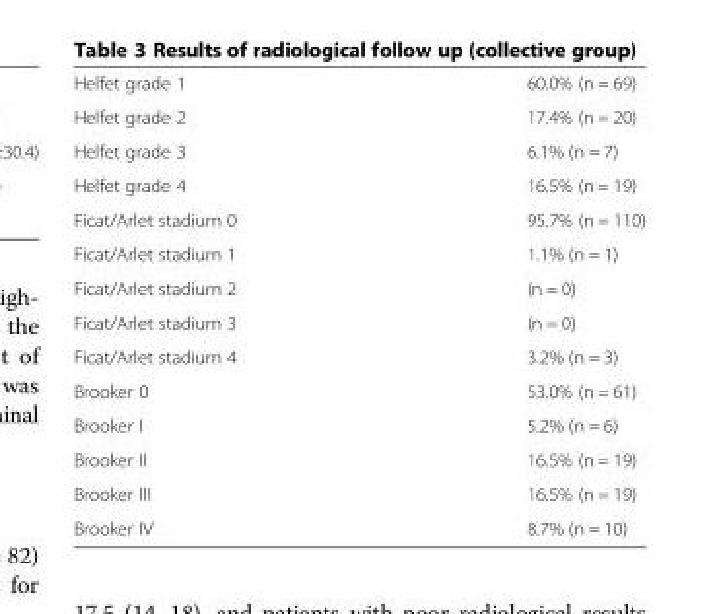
<table><tbody><tr><td>Helfet grade 1</td><td>60.0% (n = 69)</td></tr><tr><td>Helfet grade 2</td><td>17.4% (n = 20)</td></tr><tr><td>Helfet grade 3</td><td>6.1% (n = 7)</td></tr><tr><td>Helfet grade 4</td><td>16.5% (n = 19)</td></tr><tr><td>Ficat/Arlet stadium 0</td><td>95.7% (n = 110)</td></tr><tr><td>Ficat/Arlet stadium 1</td><td>1.1% (n = 1)</td></tr><tr><td>Ficat/Arlet stadium 2</td><td>(n = 0)</td></tr><tr><td>Ficat/Arlet stadium 3</td><td>(n = 0)</td></tr><tr><td>Ficat/Arlet stadium 4</td><td>3.2% (n = 3)</td></tr><tr><td>Brooker 0</td><td>53.0% (n = 61)</td></tr><tr><td>Brooker I</td><td>5.2% (n = 6)</td></tr><tr><td>Brooker II</td><td>16.5% (n = 19)</td></tr><tr><td>Brooker III</td><td>16.5% (n = 19)</td></tr><tr><td>Brooker IV</td><td>8.7% (n = 10)</td></tr></tbody></table>